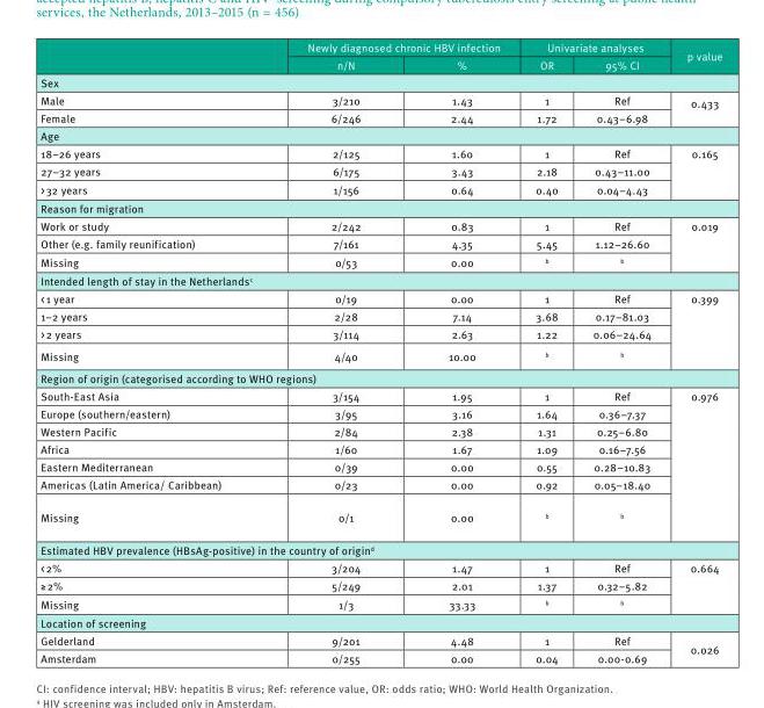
<table><thead><tr><td rowspan="2"></td><td colspan="2">Newly diagnosed chronic HBV infection</td><td colspan="2">Univariate analyses</td><td rowspan="2">p value</td></tr><tr><td>n/N</td><td>%</td><td>OR</td><td>95% CI</td></tr></thead><tbody><tr><td colspan="6">Sex</td></tr><tr><td>Male</td><td>3/210</td><td>1.43</td><td>1</td><td>Ref</td><td rowspan="2">0.433</td></tr><tr><td>Female</td><td>6/246</td><td>2.44</td><td>1.72</td><td>0.43–6.98</td></tr><tr><td colspan="6">Age</td></tr><tr><td>18–26 years</td><td>2/125</td><td>1.60</td><td>1</td><td>Ref</td><td rowspan="3">0.165</td></tr><tr><td>27–32 years</td><td>6/175</td><td>3.43</td><td>2.18</td><td>0.43–11.00</td></tr><tr><td>&gt; 32 years</td><td>1/156</td><td>0.64</td><td>0.40</td><td>0.04–4.43</td></tr><tr><td colspan="6">Reason for migration</td></tr><tr><td>Work or study</td><td>2/242</td><td>0.83</td><td>1</td><td>Ref</td><td rowspan="3">0.019</td></tr><tr><td>Other (e.g. family reunification)</td><td>7/161</td><td>4.35</td><td>5.45</td><td>1.12–26.60</td></tr><tr><td>Missing</td><td>0/53</td><td>0.00</td><td><sup>b</sup></td><td><sup>b</sup></td></tr><tr><td colspan="6">Intended length of stay in the Netherlands<sup>c</sup></td></tr><tr><td>&lt; 1 year</td><td>0/19</td><td>0.00</td><td>1</td><td>Ref</td><td rowspan="4">0.399</td></tr><tr><td>1–2 years</td><td>2/28</td><td>7.14</td><td>3.68</td><td>0.17–81.03</td></tr><tr><td>&gt; 2 years</td><td>3/114</td><td>2.63</td><td>1.22</td><td>0.06–24.64</td></tr><tr><td>Missing</td><td>4/40</td><td>10.00</td><td><sup>b</sup></td><td><sup>b</sup></td></tr><tr><td colspan="6">Region of origin (categorised according to WHO regions)</td></tr><tr><td>South-East Asia</td><td>3/154</td><td>1.95</td><td>1</td><td>Ref</td><td rowspan="7">0.976</td></tr><tr><td>Europe (southern/eastern)</td><td>3/95</td><td>3.16</td><td>1.64</td><td>0.36–7.37</td></tr><tr><td>Western Pacific</td><td>2/84</td><td>2.38</td><td>1.31</td><td>0.25–6.80</td></tr><tr><td>Africa</td><td>1/60</td><td>1.67</td><td>1.09</td><td>0.16–7.56</td></tr><tr><td>Eastern Mediterranean</td><td>0/39</td><td>0.00</td><td>0.55</td><td>0.28–10.83</td></tr><tr><td>Americas (Latin America/ Caribbean)</td><td>0/23</td><td>0.00</td><td>0.92</td><td>0.05–18.40</td></tr><tr><td>Missing</td><td>0/1</td><td>0.00</td><td><sup>b</sup></td><td><sup>b</sup></td></tr><tr><td colspan="6">Estimated HBV prevalence (HBsAg-positive) in the country of origin<sup>d</sup></td></tr><tr><td>&lt; 2%</td><td>3/204</td><td>1.47</td><td>1</td><td>Ref</td><td rowspan="3">0.664</td></tr><tr><td>≥ 2%</td><td>5/249</td><td>2.01</td><td>1.37</td><td>0.32–5.82</td></tr><tr><td>Missing</td><td>1/3</td><td>33.33</td><td><sup>b</sup></td><td><sup>b</sup></td></tr><tr><td colspan="6">Location of screening</td></tr><tr><td>Gelderland</td><td>9/201</td><td>4.48</td><td>1</td><td>Ref</td><td rowspan="2">0.026</td></tr><tr><td>Amsterdam</td><td>0/255</td><td>0.00</td><td>0.04</td><td>0.00-0.69</td></tr></tbody></table>